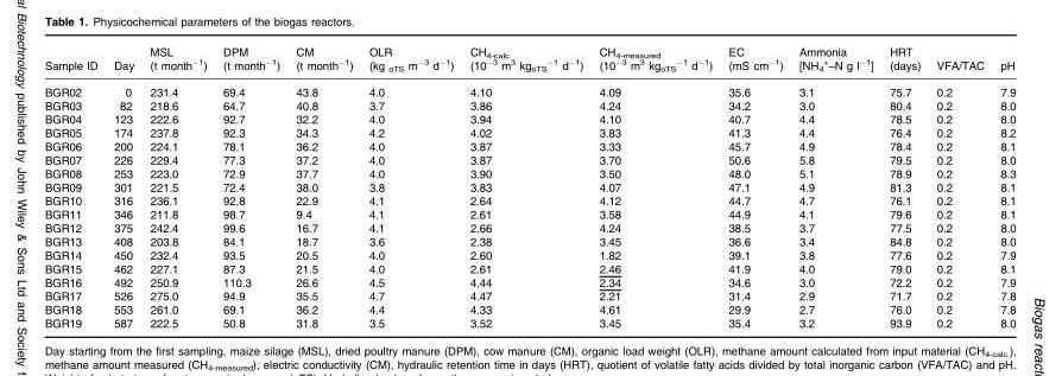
<table><thead><tr><td>Sample ID</td><td>Day</td><td>MSL (t month<sup>−1</sup>)</td><td>DPM (t month<sup>−1</sup>)</td><td>CM (t month<sup>−1</sup>)</td><td>OLR (kg <sub>oTS</sub> m<sup>−3</sup> d<sup>−1</sup>)</td><td>CH<sub>4-calc.</sub> (10<sup>−3</sup> m<sup>3</sup> kg<sub>oTS</sub> <sup>−1</sup> d<sup>−1</sup>)</td><td>CH<sub>4-measured</sub> (10<sup>−3</sup> m<sup>3</sup> kg<sub>oTS</sub> <sup>−1</sup> d<sup>−1</sup>)</td><td>EC (mS cm<sup>−1</sup>)</td><td>Ammonia [NH<sub>4</sub> <sup>+</sup>–N g l<sup>−1</sup>]</td><td>HRT (days)</td><td>VFA/TAC</td><td>pH</td></tr></thead><tbody><tr><td>BGR02</td><td>0</td><td>231.4</td><td>69.4</td><td>43.8</td><td>4.0</td><td>4.10</td><td>4.09</td><td>35.6</td><td>3.1</td><td>75.7</td><td>0.2</td><td>7.9</td></tr><tr><td>BGR03</td><td>82</td><td>218.6</td><td>64.7</td><td>40.8</td><td>3.7</td><td>3.86</td><td>4.24</td><td>34.2</td><td>3.0</td><td>80.4</td><td>0.2</td><td>8.0</td></tr><tr><td>BGR04</td><td>123</td><td>222.6</td><td>92.7</td><td>32.2</td><td>4.0</td><td>3.94</td><td>4.10</td><td>40.7</td><td>4.4</td><td>78.5</td><td>0.2</td><td>8.0</td></tr><tr><td>BGR05</td><td>174</td><td>237.8</td><td>92.3</td><td>34.3</td><td>4.2</td><td>4.02</td><td>3.83</td><td>41.3</td><td>4.4</td><td>76.4</td><td>0.2</td><td>8.2</td></tr><tr><td>BGR06</td><td>200</td><td>224.1</td><td>78.1</td><td>36.2</td><td>4.0</td><td>3.87</td><td>3.33</td><td>45.7</td><td>4.9</td><td>78.4</td><td>0.2</td><td>8.1</td></tr><tr><td>BGR07</td><td>226</td><td>229.4</td><td>77.3</td><td>37.2</td><td>4.0</td><td>3.87</td><td>3.70</td><td>50.6</td><td>5.8</td><td>79.5</td><td>0.2</td><td>8.0</td></tr><tr><td>BGR08</td><td>253</td><td>223.0</td><td>72.9</td><td>37.7</td><td>4.0</td><td>3.90</td><td>3.50</td><td>48.0</td><td>5.1</td><td>78.9</td><td>0.2</td><td>8.3</td></tr><tr><td>BGR09</td><td>301</td><td>221.5</td><td>72.4</td><td>38.0</td><td>3.8</td><td>3.83</td><td>4.07</td><td>47.1</td><td>4.9</td><td>81.3</td><td>0.2</td><td>8.1</td></tr><tr><td>BGR10</td><td>316</td><td>236.1</td><td>92.8</td><td>22.9</td><td>4.1</td><td>2.64</td><td>4.12</td><td>44.7</td><td>4.7</td><td>76.1</td><td>0.2</td><td>8.1</td></tr><tr><td>BGR11</td><td>346</td><td>211.8</td><td>98.7</td><td>9.4</td><td>4.1</td><td>2.61</td><td>3.58</td><td>44.9</td><td>4.1</td><td>79.6</td><td>0.2</td><td>8.1</td></tr><tr><td>BGR12</td><td>375</td><td>242.4</td><td>99.6</td><td>16.7</td><td>4.1</td><td>2.66</td><td>4.24</td><td>38.5</td><td>3.7</td><td>77.5</td><td>0.2</td><td>8.0</td></tr><tr><td>BGR13</td><td>408</td><td>203.8</td><td>84.1</td><td>18.7</td><td>3.6</td><td>2.38</td><td>3.45</td><td>36.6</td><td>3.4</td><td>84.8</td><td>0.2</td><td>8.0</td></tr><tr><td>BGR14</td><td>450</td><td>232.4</td><td>93.5</td><td>20.5</td><td>4.0</td><td>2.60</td><td>1.82</td><td>39.1</td><td>3.8</td><td>77.6</td><td>0.2</td><td>7.9</td></tr><tr><td>BGR15</td><td>462</td><td>227.1</td><td>87.3</td><td>21.5</td><td>4.0</td><td>2.61</td><td>2.46</td><td>41.9</td><td>4.0</td><td>79.0</td><td>0.2</td><td>8.1</td></tr><tr><td>BGR16</td><td>492</td><td>250.9</td><td>110.3</td><td>26.6</td><td>4.5</td><td>4.44</td><td>2.34</td><td>34.6</td><td>3.0</td><td>72.2</td><td>0.2</td><td>7.9</td></tr><tr><td>BGR17</td><td>526</td><td>275.0</td><td>94.9</td><td>35.5</td><td>4.7</td><td>4.47</td><td>2.21</td><td>31.4</td><td>2.9</td><td>71.7</td><td>0.2</td><td>7.8</td></tr><tr><td>BGR18</td><td>553</td><td>261.0</td><td>69.1</td><td>36.2</td><td>4.4</td><td>4.33</td><td>4.61</td><td>29.9</td><td>2.7</td><td>76.0</td><td>0.2</td><td>7.8</td></tr><tr><td>BGR19</td><td>587</td><td>222.5</td><td>50.8</td><td>31.8</td><td>3.5</td><td>3.52</td><td>3.45</td><td>35.4</td><td>3.2</td><td>93.9</td><td>0.2</td><td>8.0</td></tr></tbody></table>